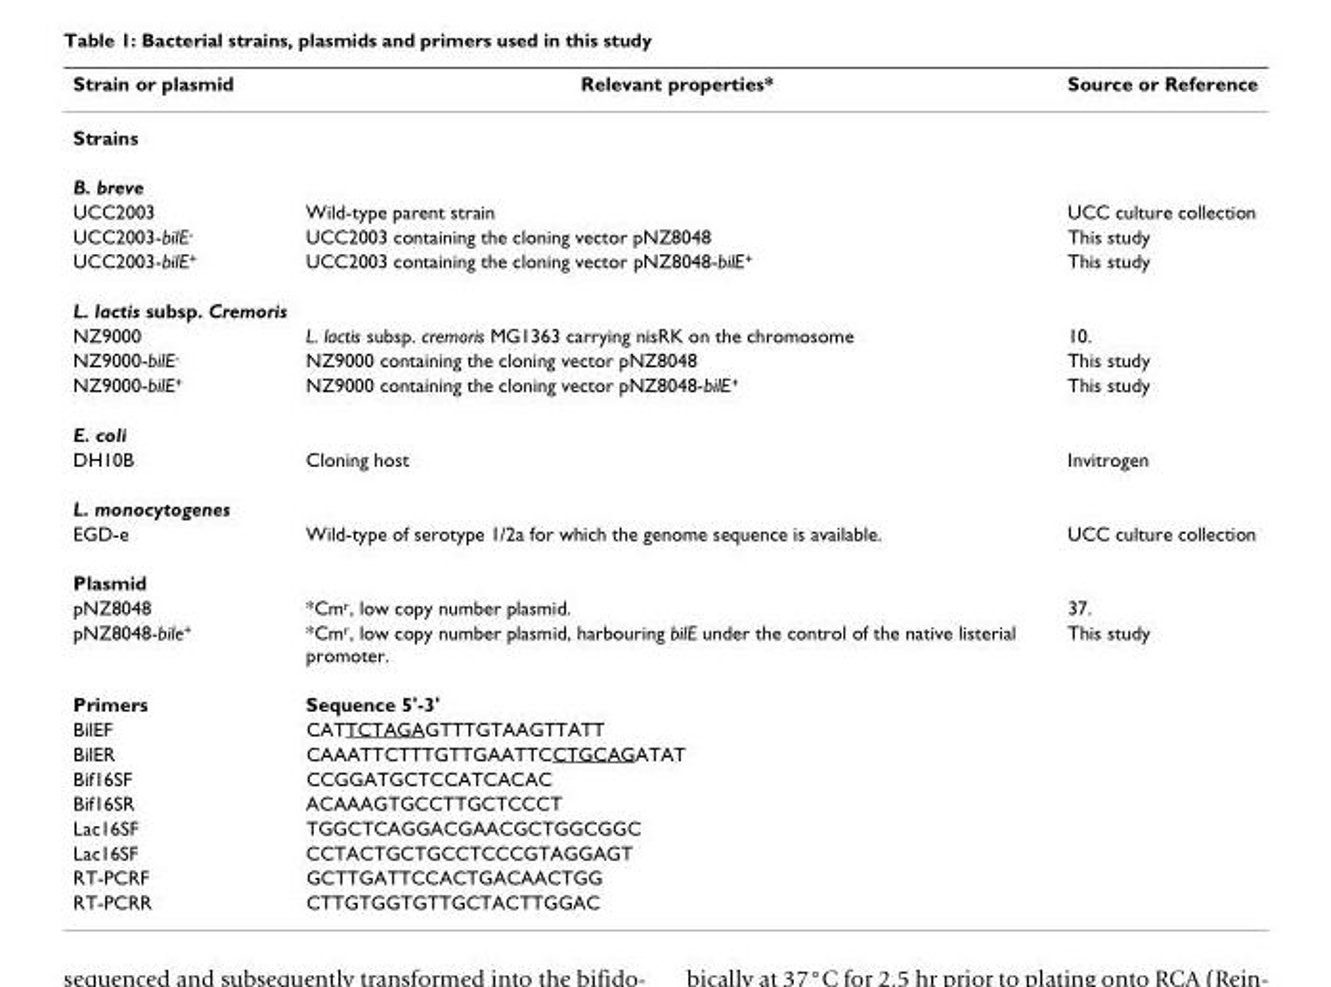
<table><thead><tr><td>Strain or plasmid</td><td>Relevant properties*</td><td>Source or Reference</td></tr></thead><tbody><tr><td colspan="3">Strains</td></tr><tr><td colspan="3">B. breve</td></tr><tr><td>UCC2003</td><td>Wild-type parent strain</td><td>UCC culture collection</td></tr><tr><td>UCC2003-bilE<sup>-</sup></td><td>UCC2003 containing the cloning vector pNZ8048</td><td>This study</td></tr><tr><td>UCC2003-bilE<sup>+</sup></td><td>UCC2003 containing the cloning vector pNZ8048-bilE<sup>+</sup></td><td>This study</td></tr><tr><td colspan="3">L. lactis subsp. Cremoris</td></tr><tr><td>NZ9000</td><td>L. lactis subsp. cremoris MG1363 carrying nisRK on the chromosome</td><td>10.</td></tr><tr><td>NZ9000-bilE<sup>-</sup></td><td>NZ9000 containing the cloning vector pNZ8048</td><td>This study</td></tr><tr><td>NZ9000-bilE<sup>+</sup></td><td>NZ9000 containing the cloning vector pNZ8048-bilE<sup>+</sup></td><td>This study</td></tr><tr><td colspan="3">E. coli</td></tr><tr><td>DH10B</td><td>Cloning host</td><td>Invitrogen</td></tr><tr><td colspan="3">L. monocytogenes</td></tr><tr><td>EGD-e</td><td>Wild-type of serotype 1/2a for which the genome sequence is available.</td><td>UCC culture collection</td></tr><tr><td colspan="3">Plasmid</td></tr><tr><td>pNZ8048</td><td>*Cm<sup>r</sup>, low copy number plasmid.</td><td>37.</td></tr><tr><td>pNZ8048-bile<sup>+</sup></td><td>*Cm<sup>r</sup>, low copy number plasmid, harbouring bilE under the control of the native listerial promoter.</td><td>This study</td></tr><tr><td>Primers</td><td>Sequence 5&#x27;-3&#x27;</td><td></td></tr><tr><td>BilEF</td><td>CATTCTAGAGTTTGTAAGTTATT</td><td></td></tr><tr><td>BilER</td><td>CAAATTCTTTGTTGAATTCCTGCAGATAT</td><td></td></tr><tr><td>Bif16SF</td><td>CCGGATGCTCCATCACAC</td><td></td></tr><tr><td>Bif16SR</td><td>ACAAAGTGCCTTGCTCCCT</td><td></td></tr><tr><td>Lac16SF</td><td>TGGCTCAGGACGAACGCTGGCGGC</td><td></td></tr><tr><td>Lac16SF</td><td>CCTACTGCTGCCTCCCGTAGGAGT</td><td></td></tr><tr><td>RT-PCRF</td><td>GCTTGATTCCACTGACAACTGG</td><td></td></tr><tr><td>RT-PCRR</td><td>CTTGTGGTGTTGCTACTTGGAC</td><td></td></tr></tbody></table>